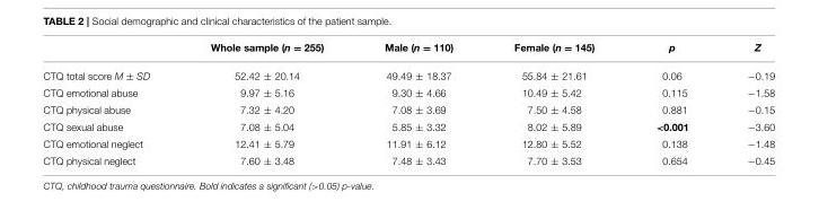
<table><thead><tr><td></td><td>Whole sample (n = 255)</td><td>Male (n = 110)</td><td>Female (n = 145)</td><td>p</td><td>Z</td></tr></thead><tbody><tr><td>CTQ total score M ± SD</td><td>52.42 ± 20.14</td><td>49.49 ± 18.37</td><td>55.84 ± 21.61</td><td>0.06</td><td>−0.19</td></tr><tr><td>CTQ emotional abuse</td><td>9.97 ± 5.16</td><td>9.30 ± 4.66</td><td>10.49 ± 5.42</td><td>0.115</td><td>−1.58</td></tr><tr><td>CTQ physical abuse</td><td>7.32 ± 4.20</td><td>7.08 ± 3.69</td><td>7.50 ± 4.58</td><td>0.881</td><td>−0.15</td></tr><tr><td>CTQ sexual abuse</td><td>7.08 ± 5.04</td><td>5.85 ± 3.32</td><td>8.02 ± 5.89</td><td>&lt;0.001</td><td>−3.60</td></tr><tr><td>CTQ emotional neglect</td><td>12.41 ± 5.79</td><td>11.91 ± 6.12</td><td>12.80 ± 5.52</td><td>0.138</td><td>−1.48</td></tr><tr><td>CTQ physical neglect</td><td>7.60 ± 3.48</td><td>7.48 ± 3.43</td><td>7.70 ± 3.53</td><td>0.654</td><td>−0.45</td></tr></tbody></table>